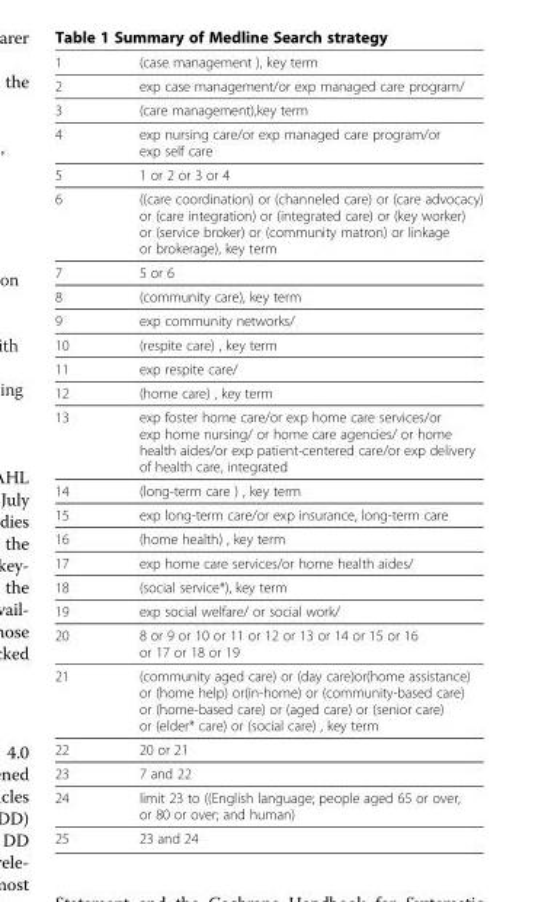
<table><tbody><tr><td>1</td><td>(case management ), key term</td></tr><tr><td>2</td><td>exp case management/or exp managed care program/</td></tr><tr><td>3</td><td>(care management),key term</td></tr><tr><td>4</td><td>exp nursing care/or exp managed care program/or exp self care</td></tr><tr><td>5</td><td>1 or 2 or 3 or 4</td></tr><tr><td>6</td><td>((care coordination) or (channeled care) or (care advocacy) or (care integration) or (integrated care) or (key worker) or (service broker) or (community matron) or linkage or brokerage), key term</td></tr><tr><td>7</td><td>5 or 6</td></tr><tr><td>8</td><td>(community care), key term</td></tr><tr><td>9</td><td>exp community networks/</td></tr><tr><td>10</td><td>(respite care) , key term</td></tr><tr><td>11</td><td>exp respite care/</td></tr><tr><td>12</td><td>(home care) , key term</td></tr><tr><td>13</td><td>exp foster home care/or exp home care services/or exp home nursing/ or home care agencies/ or home health aides/or exp patient-centered care/or exp delivery of health care, integrated</td></tr><tr><td>14</td><td>(long-term care ) , key term</td></tr><tr><td>15</td><td>exp long-term care/or exp insurance, long-term care</td></tr><tr><td>16</td><td>(home health) , key term</td></tr><tr><td>17</td><td>exp home care services/or home health aides/</td></tr><tr><td>18</td><td>(social service*), key term</td></tr><tr><td>19</td><td>exp social welfare/ or social work/</td></tr><tr><td>20</td><td>8 or 9 or 10 or 11 or 12 or 13 or 14 or 15 or 16 or 17 or 18 or 19</td></tr><tr><td>21</td><td>(community aged care) or (day care)or(home assistance) or (home help) or(in-home) or (community-based care) or (home-based care) or (aged care) or (senior care) or (elder* care) or (social care) , key term</td></tr><tr><td>22</td><td>20 or 21</td></tr><tr><td>23</td><td>7 and 22</td></tr><tr><td>24</td><td>limit 23 to ((English language; people aged 65 or over, or 80 or over; and human)</td></tr><tr><td>25</td><td>23 and 24</td></tr></tbody></table>